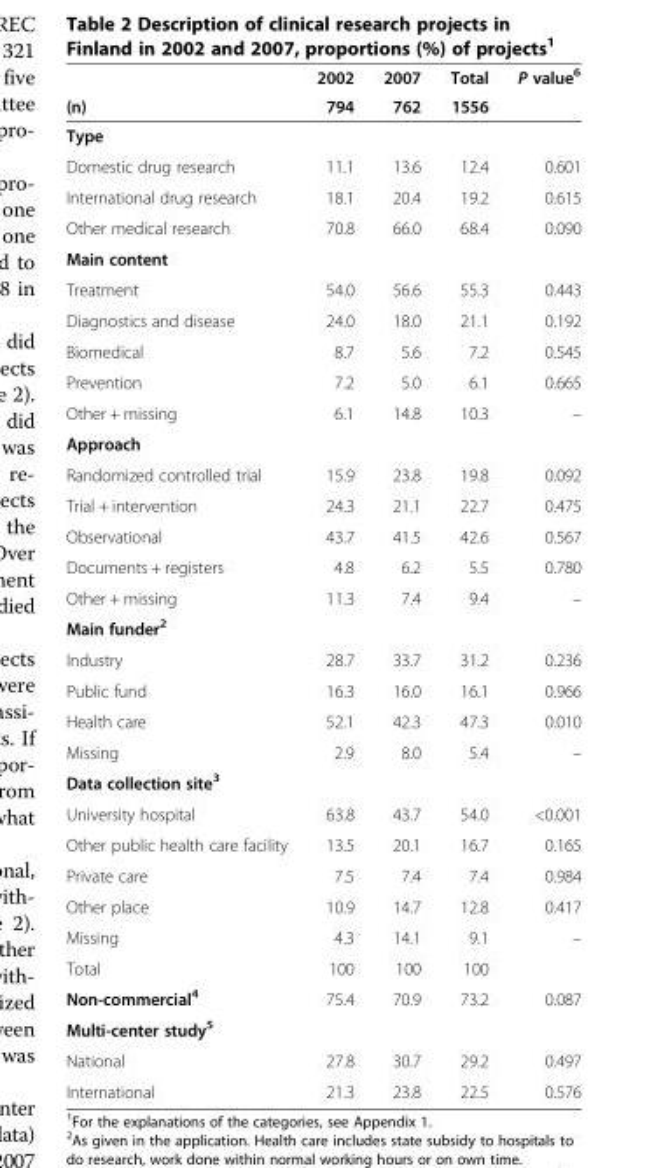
<table><thead><tr><td rowspan="2">(n)</td><td rowspan="2">2002 794</td><td rowspan="2">2007 762</td><td rowspan="2">Total 1556</td><td rowspan="2">P value<sup>6</sup></td></tr><tr></tr></thead><tbody><tr><td colspan="5">Type</td></tr><tr><td>Domestic drug research</td><td>11.1</td><td>13.6</td><td>12.4</td><td>0.601</td></tr><tr><td>International drug research</td><td>18.1</td><td>20.4</td><td>19.2</td><td>0.615</td></tr><tr><td>Other medical research</td><td>70.8</td><td>66.0</td><td>68.4</td><td>0.090</td></tr><tr><td colspan="5">Main content</td></tr><tr><td>Treatment</td><td>54.0</td><td>56.6</td><td>55.3</td><td>0.443</td></tr><tr><td>Diagnostics and disease</td><td>24.0</td><td>18.0</td><td>21.1</td><td>0.192</td></tr><tr><td>Biomedical</td><td>8.7</td><td>5.6</td><td>7.2</td><td>0.545</td></tr><tr><td>Prevention</td><td>7.2</td><td>5.0</td><td>6.1</td><td>0.665</td></tr><tr><td>Other + missing</td><td>6.1</td><td>14.8</td><td>10.3</td><td>–</td></tr><tr><td colspan="5">Approach</td></tr><tr><td>Randomized controlled trial</td><td>15.9</td><td>23.8</td><td>19.8</td><td>0.092</td></tr><tr><td>Trial + intervention</td><td>24.3</td><td>21.1</td><td>22.7</td><td>0.475</td></tr><tr><td>Observational</td><td>43.7</td><td>41.5</td><td>42.6</td><td>0.567</td></tr><tr><td>Documents + registers</td><td>4.8</td><td>6.2</td><td>5.5</td><td>0.780</td></tr><tr><td>Other + missing</td><td>11.3</td><td>7.4</td><td>9.4</td><td>–</td></tr><tr><td colspan="5">Main funder<sup>2</sup></td></tr><tr><td>Industry</td><td>28.7</td><td>33.7</td><td>31.2</td><td>0.236</td></tr><tr><td>Public fund</td><td>16.3</td><td>16.0</td><td>16.1</td><td>0.966</td></tr><tr><td>Health care</td><td>52.1</td><td>42.3</td><td>47.3</td><td>0.010</td></tr><tr><td>Missing</td><td>2.9</td><td>8.0</td><td>5.4</td><td>–</td></tr><tr><td colspan="5">Data collection site<sup>3</sup></td></tr><tr><td>University hospital</td><td>63.8</td><td>43.7</td><td>54.0</td><td>&lt;0.001</td></tr><tr><td>Other public health care facility</td><td>13.5</td><td>20.1</td><td>16.7</td><td>0.165</td></tr><tr><td>Private care</td><td>7.5</td><td>7.4</td><td>7.4</td><td>0.984</td></tr><tr><td>Other place</td><td>10.9</td><td>14.7</td><td>12.8</td><td>0.417</td></tr><tr><td>Missing</td><td>4.3</td><td>14.1</td><td>9.1</td><td>–</td></tr><tr><td>Total</td><td>100</td><td>100</td><td>100</td><td></td></tr><tr><td>Non-commercial<sup>4</sup></td><td>75.4</td><td>70.9</td><td>73.2</td><td>0.087</td></tr><tr><td colspan="5">Multi-center study<sup>5</sup></td></tr><tr><td>National</td><td>27.8</td><td>30.7</td><td>29.2</td><td>0.497</td></tr><tr><td>International</td><td>21.3</td><td>23.8</td><td>22.5</td><td>0.576</td></tr></tbody></table>